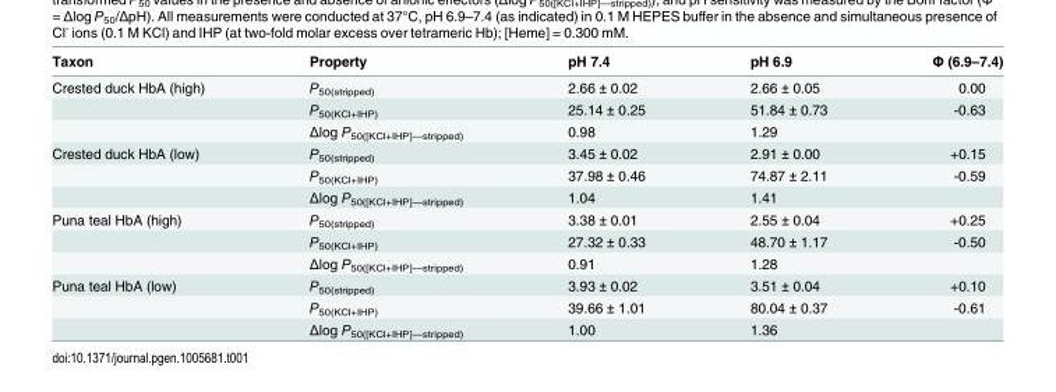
<table><thead><tr><td>Taxon</td><td>Property</td><td>pH 7.4</td><td>pH 6.9</td><td>Φ (6.9–7.4)</td></tr></thead><tbody><tr><td rowspan="3">Crested duck HbA (high)</td><td>P<sub>50(stripped)</sub></td><td>2.66 ± 0.02</td><td>2.66 ± 0.05</td><td>0.00</td></tr><tr><td>P<sub>50(KCl+IHP)</sub></td><td>25.14 ± 0.25</td><td>51.84 ± 0.73</td><td>-0.63</td></tr><tr><td>Δlog P<sub>50([KCl+IHP]—stripped)</sub></td><td>0.98</td><td>1.29</td><td></td></tr><tr><td rowspan="3">Crested duck HbA (low)</td><td>P<sub>50(stripped)</sub></td><td>3.45 ± 0.02</td><td>2.91 ± 0.00</td><td>+0.15</td></tr><tr><td>P<sub>50(KCl+IHP)</sub></td><td>37.98 ± 0.46</td><td>74.87 ± 2.11</td><td>-0.59</td></tr><tr><td>Δlog P<sub>50([KCl+IHP]—stripped)</sub></td><td>1.04</td><td>1.41</td><td></td></tr><tr><td rowspan="3">Puna teal HbA (high)</td><td>P<sub>50(stripped)</sub></td><td>3.38 ± 0.01</td><td>2.55 ± 0.04</td><td>+0.25</td></tr><tr><td>P<sub>50(KCl+IHP)</sub></td><td>27.32 ± 0.33</td><td>48.70 ± 1.17</td><td>-0.50</td></tr><tr><td>Δlog P<sub>50([KCl+IHP]—stripped)</sub></td><td>0.91</td><td>1.28</td><td></td></tr><tr><td rowspan="3">Puna teal HbA (low)</td><td>P<sub>50(stripped)</sub></td><td>3.93 ± 0.02</td><td>3.51 ± 0.04</td><td>+0.10</td></tr><tr><td>P<sub>50(KCl+IHP)</sub></td><td>39.66 ± 1.01</td><td>80.04 ± 0.37</td><td>-0.61</td></tr><tr><td>Δlog P<sub>50([KCl+IHP]—stripped)</sub></td><td>1.00</td><td>1.36</td><td></td></tr></tbody></table>